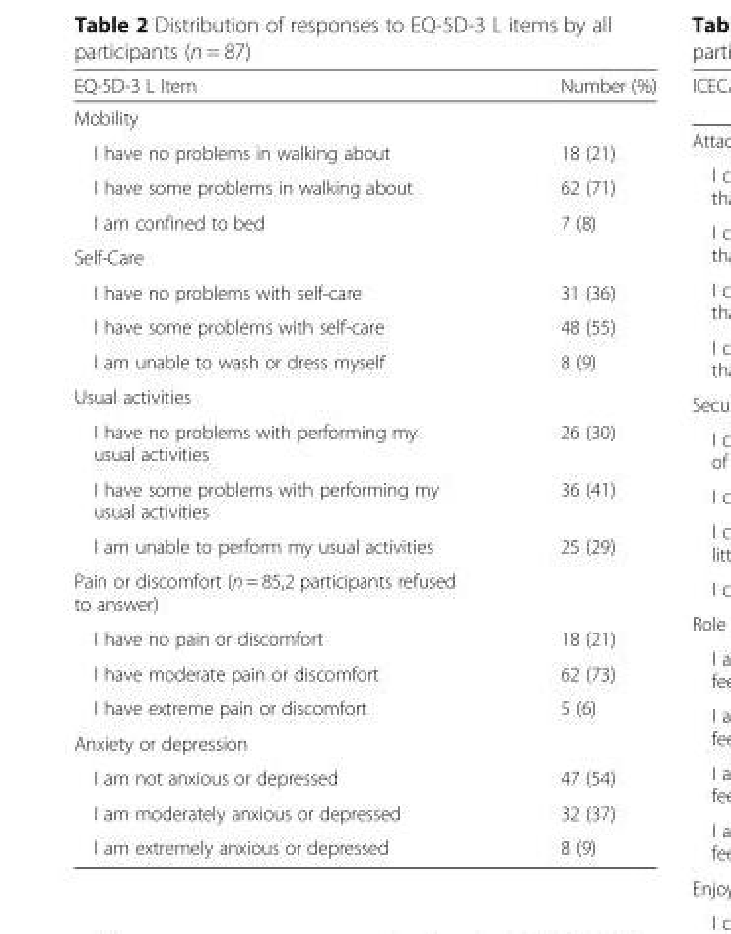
<table><thead><tr><td>EQ-5D-3 L Item</td><td>Number (%)</td></tr></thead><tbody><tr><td colspan="2">Mobility</td></tr><tr><td>I have no problems in walking about</td><td>18 (21)</td></tr><tr><td>I have some problems in walking about</td><td>62 (71)</td></tr><tr><td>I am confined to bed</td><td>7 (8)</td></tr><tr><td colspan="2">Self-Care</td></tr><tr><td>I have no problems with self-care</td><td>31 (36)</td></tr><tr><td>I have some problems with self-care</td><td>48 (55)</td></tr><tr><td>I am unable to wash or dress myself</td><td>8 (9)</td></tr><tr><td colspan="2">Usual activities</td></tr><tr><td>I have no problems with performing my usual activities</td><td>26 (30)</td></tr><tr><td>I have some problems with performing my usual activities</td><td>36 (41)</td></tr><tr><td>I am unable to perform my usual activities</td><td>25 (29)</td></tr><tr><td colspan="2">Pain or discomfort (n = 85,2 participants refused to answer)</td></tr><tr><td>I have no pain or discomfort</td><td>18 (21)</td></tr><tr><td>I have moderate pain or discomfort</td><td>62 (73)</td></tr><tr><td>I have extreme pain or discomfort</td><td>5 (6)</td></tr><tr><td colspan="2">Anxiety or depression</td></tr><tr><td>I am not anxious or depressed</td><td>47 (54)</td></tr><tr><td>I am moderately anxious or depressed</td><td>32 (37)</td></tr><tr><td>I am extremely anxious or depressed</td><td>8 (9)</td></tr></tbody></table>